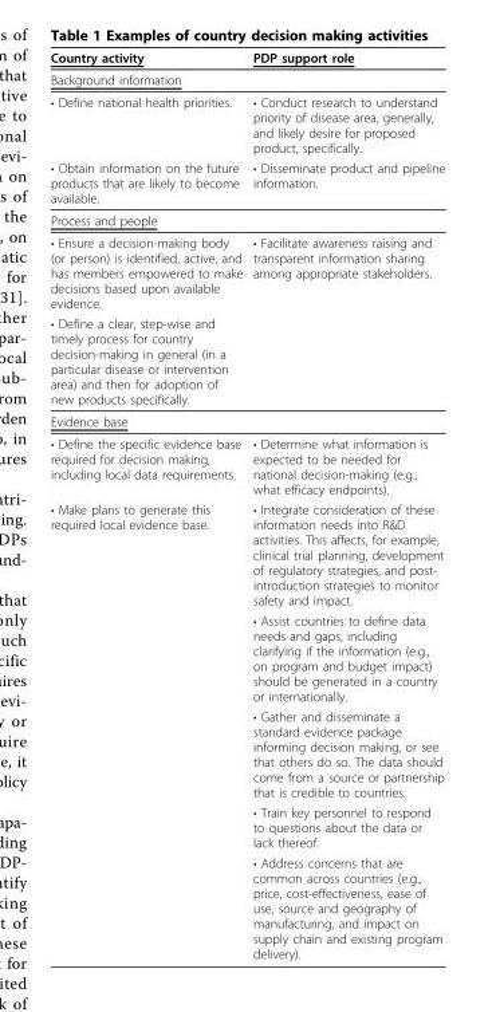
<table><thead><tr><td>Country activity</td><td>PDP support role</td></tr></thead><tbody><tr><td colspan="2">Background information</td></tr><tr><td>• Define national health priorities.</td><td>• Conduct research to understand priority of disease area, generally, and likely desire for proposed product, specifically.</td></tr><tr><td>• Obtain information on the future products that are likely to become available.</td><td>• Disseminate product and pipeline information.</td></tr><tr><td colspan="2">Process and people</td></tr><tr><td>• Ensure a decision-making body (or person) is identified, active, and has members empowered to make decisions based upon available evidence.</td><td>• Facilitate awareness raising and transparent information sharing among appropriate stakeholders.</td></tr><tr><td colspan="2">• Define a clear, step-wise and timely process for country decision-making in general (in a particular disease or intervention area) and then for adoption of new products specifically.</td></tr><tr><td colspan="2">Evidence base</td></tr><tr><td>• Define the specific evidence base required for decision making, including local data requirements.</td><td>• Determine what information is expected to be needed for national decision-making (e.g., what efficacy endpoints).</td></tr><tr><td rowspan="5">• Make plans to generate this required local evidence base.</td><td>• Integrate consideration of these information needs into R&amp;D activities. This affects, for example, clinical trial planning, development of regulatory strategies, and post- introduction strategies to monitor safety and impact.</td></tr><tr><td>• Assist countries to define data needs and gaps, including clarifying if the information (e.g., on program and budget impact) should be generated in a country or internationally.</td></tr><tr><td>• Gather and disseminate a standard evidence package informing decision making, or see that others do so. The data should come from a source or partnership that is credible to countries.</td></tr><tr><td>• Train key personnel to respond to questions about the data or lack thereof.</td></tr><tr><td>• Address concerns that are common across countries (e.g., price, cost-effectiveness, ease of use, source and geography of manufacturing, and impact on supply chain and existing program delivery).</td></tr></tbody></table>